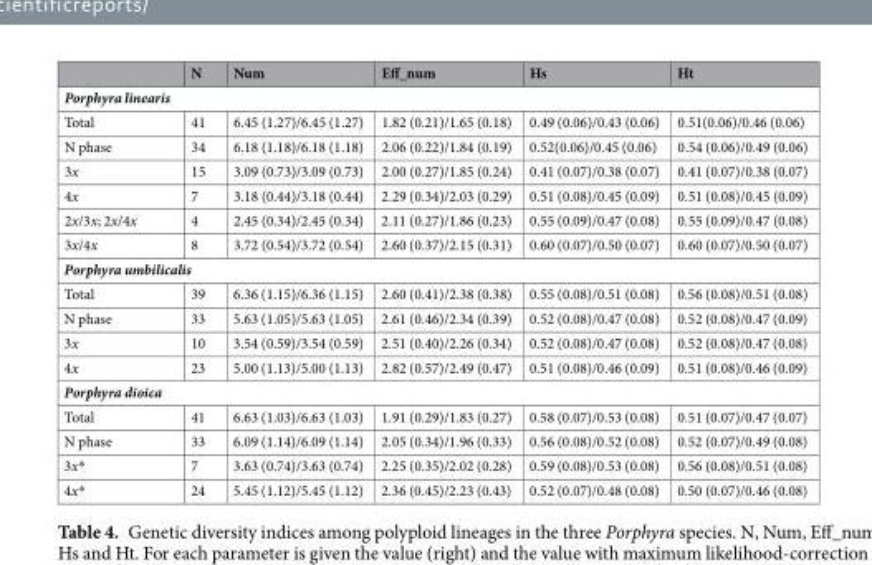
<table><thead><tr><td></td><td>N</td><td>Num</td><td>Eff_num</td><td>Hs</td><td>Ht</td></tr></thead><tbody><tr><td colspan="6">Porphyra linearis</td></tr><tr><td>Total</td><td>41</td><td>6.45 (1.27)/6.45 (1.27)</td><td>1.82 (0.21)/1.65 (0.18)</td><td>0.49 (0.06)/0.43 (0.06)</td><td>0.51(0.06)/0.46 (0.06)</td></tr><tr><td>N phase</td><td>34</td><td>6.18 (1.18)/6.18 (1.18)</td><td>2.06 (0.22)/1.84 (0.19)</td><td>0.52(0.06)/0.45 (0.06)</td><td>0.54 (0.06)/0.49 (0.06)</td></tr><tr><td>3x</td><td>15</td><td>3.09 (0.73)/3.09 (0.73)</td><td>2.00 (0.27)/1.85 (0.24)</td><td>0.41 (0.07)/0.38 (0.07)</td><td>0.41 (0.07)/0.38 (0.07)</td></tr><tr><td>4x</td><td>7</td><td>3.18 (0.44)/3.18 (0.44)</td><td>2.29 (0.34)/2.03 (0.29)</td><td>0.51 (0.08)/0.45 (0.09)</td><td>0.51 (0.08)/0.45 (0.09)</td></tr><tr><td>2x/3x; 2x/4x</td><td>4</td><td>2.45 (0.34)/2.45 (0.34)</td><td>2.11 (0.27)/1.86 (0.23)</td><td>0.55 (0.09)/0.47 (0.08)</td><td>0.55 (0.09)/0.47 (0.08)</td></tr><tr><td>3x/4x</td><td>8</td><td>3.72 (0.54)/3.72 (0.54)</td><td>2.60 (0.37)/2.15 (0.31)</td><td>0.60 (0.07)/0.50 (0.07)</td><td>0.60 (0.07)/0.50 (0.07)</td></tr><tr><td colspan="6">Porphyra umbilicalis</td></tr><tr><td>Total</td><td>39</td><td>6.36 (1.15)/6.36 (1.15)</td><td>2.60 (0.41)/2.38 (0.38)</td><td>0.55 (0.08)/0.51 (0.08)</td><td>0.56 (0.08)/0.51 (0.08)</td></tr><tr><td>N phase</td><td>33</td><td>5.63 (1.05)/5.63 (1.05)</td><td>2.61 (0.46)/2.34 (0.39)</td><td>0.52 (0.08)/0.47 (0.08)</td><td>0.52 (0.08)/0.47 (0.09)</td></tr><tr><td>3x</td><td>10</td><td>3.54 (0.59)/3.54 (0.59)</td><td>2.51 (0.40)/2.26 (0.34)</td><td>0.52 (0.08)/0.47 (0.08)</td><td>0.52 (0.08)/0.47 (0.08)</td></tr><tr><td>4x</td><td>23</td><td>5.00 (1.13)/5.00 (1.13)</td><td>2.82 (0.57)/2.49 (0.47)</td><td>0.51 (0.08)/0.46 (0.09)</td><td>0.51 (0.08)/0.46 (0.09)</td></tr><tr><td colspan="6">Porphyra dioica</td></tr><tr><td>Total</td><td>41</td><td>6.63 (1.03)/6.63 (1.03)</td><td>1.91 (0.29)/1.83 (0.27)</td><td>0.58 (0.07)/0.53 (0.08)</td><td>0.51 (0.07)/0.47 (0.07)</td></tr><tr><td>N phase</td><td>33</td><td>6.09 (1.14)/6.09 (1.14)</td><td>2.05 (0.34)/1.96 (0.33)</td><td>0.56 (0.08)/0.52 (0.08)</td><td>0.52 (0.07)/0.49 (0.08)</td></tr><tr><td>3x*</td><td>7</td><td>3.63 (0.74)/3.63 (0.74)</td><td>2.25 (0.35)/2.02 (0.28)</td><td>0.59 (0.08)/0.53 (0.08)</td><td>0.56 (0.08)/0.51 (0.08)</td></tr><tr><td>4x*</td><td>24</td><td>5.45 (1.12)/5.45 (1.12)</td><td>2.36 (0.45)/2.23 (0.43)</td><td>0.52 (0.07)/0.48 (0.08)</td><td>0.50 (0.07)/0.46 (0.08)</td></tr></tbody></table>